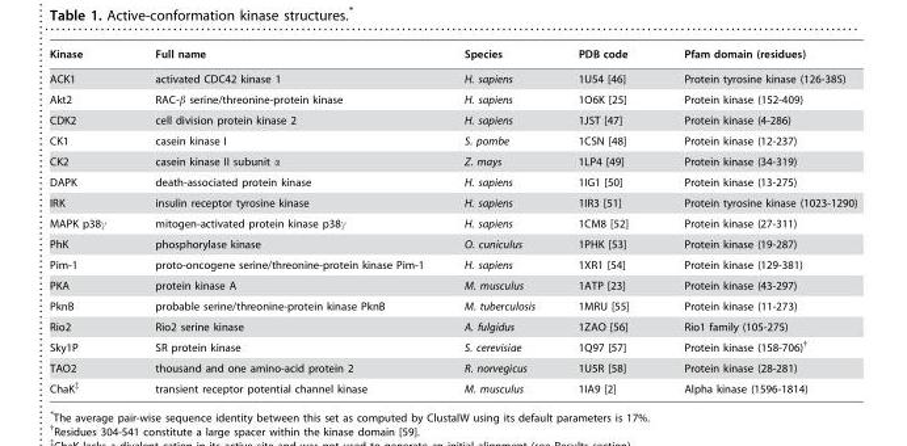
<table><thead><tr><td>Kinase</td><td>Full name</td><td>Species</td><td>PDB code</td><td>Pfam domain (residues)</td></tr></thead><tbody><tr><td>ACK1</td><td>activated CDC42 kinase 1</td><td>H. sapiens</td><td>1U54 [46]</td><td>Protein tyrosine kinase (126-385)</td></tr><tr><td>Akt2</td><td>RAC-β serine/threonine-protein kinase</td><td>H. sapiens</td><td>1O6K [25]</td><td>Protein kinase (152-409)</td></tr><tr><td>CDK2</td><td>cell division protein kinase 2</td><td>H. sapiens</td><td>1JST [47]</td><td>Protein kinase (4-286)</td></tr><tr><td>CK1</td><td>casein kinase I</td><td>S. pombe</td><td>1CSN [48]</td><td>Protein kinase (12-237)</td></tr><tr><td>CK2</td><td>casein kinase II subunit α</td><td>Z. mays</td><td>1LP4 [49]</td><td>Protein kinase (34-319)</td></tr><tr><td>DAPK</td><td>death-associated protein kinase</td><td>H. sapiens</td><td>1IG1 [50]</td><td>Protein kinase (13-275)</td></tr><tr><td>IRK</td><td>insulin receptor tyrosine kinase</td><td>H. sapiens</td><td>1IR3 [51]</td><td>Protein tyrosine kinase (1023-1290)</td></tr><tr><td>MAPK p38γ</td><td>mitogen-activated protein kinase p38γ</td><td>H. sapiens</td><td>1CM8 [52]</td><td>Protein kinase (27-311)</td></tr><tr><td>PhK</td><td>phosphorylase kinase</td><td>O. cuniculus</td><td>1PHK [53]</td><td>Protein kinase (19-287)</td></tr><tr><td>Pim-1</td><td>proto-oncogene serine/threonine-protein kinase Pim-1</td><td>H. sapiens</td><td>1XR1 [54]</td><td>Protein kinase (129-381)</td></tr><tr><td>PKA</td><td>protein kinase A</td><td>M. musculus</td><td>1ATP [23]</td><td>Protein kinase (43-297)</td></tr><tr><td>PknB</td><td>probable serine/threonine-protein kinase PknB</td><td>M. tuberculosis</td><td>1MRU [55]</td><td>Protein kinase (11-273)</td></tr><tr><td>Rio2</td><td>Rio2 serine kinase</td><td>A. fulgidus</td><td>1ZAO [56]</td><td>Rio1 family (105-275)</td></tr><tr><td>Sky1P</td><td>SR protein kinase</td><td>S. cerevisiae</td><td>1Q97 [57]</td><td>Protein kinase (158-706)†</td></tr><tr><td>TAO2</td><td>thousand and one amino-acid protein 2</td><td>R. norvegicus</td><td>1U5R [58]</td><td>Protein kinase (28-281)</td></tr><tr><td>ChaK‡</td><td>transient receptor potential channel kinase</td><td>M. musculus</td><td>1IA9 [2]</td><td>Alpha kinase (1596-1814)</td></tr></tbody></table>